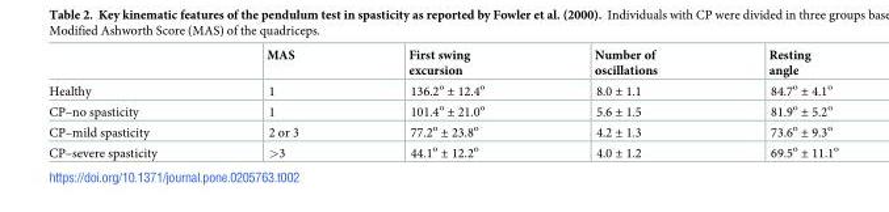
<table><thead><tr><td></td><td>MAS</td><td>First swing excursion</td><td>Number of oscillations</td><td>Resting angle</td></tr></thead><tbody><tr><td>Healthy</td><td>1</td><td>136.2<sup>o</sup> ± 12.4<sup>o</sup></td><td>8.0 ± 1.1</td><td>84.7<sup>o</sup> ± 4.1<sup>o</sup></td></tr><tr><td>CP–no spasticity</td><td>1</td><td>101.4<sup>o</sup> ± 21.0<sup>o</sup></td><td>5.6 ± 1.5</td><td>81.9<sup>o</sup> ± 5.2<sup>o</sup></td></tr><tr><td>CP–mild spasticity</td><td>2 or 3</td><td>77.2<sup>o</sup> ± 23.8<sup>o</sup></td><td>4.2 ± 1.3</td><td>73.6<sup>o</sup> ± 9.3<sup>o</sup></td></tr><tr><td>CP–severe spasticity</td><td>&gt;3</td><td>44.1<sup>o</sup> ± 12.2<sup>o</sup></td><td>4.0 ± 1.2</td><td>69.5<sup>o</sup> ± 11.1<sup>o</sup></td></tr></tbody></table>